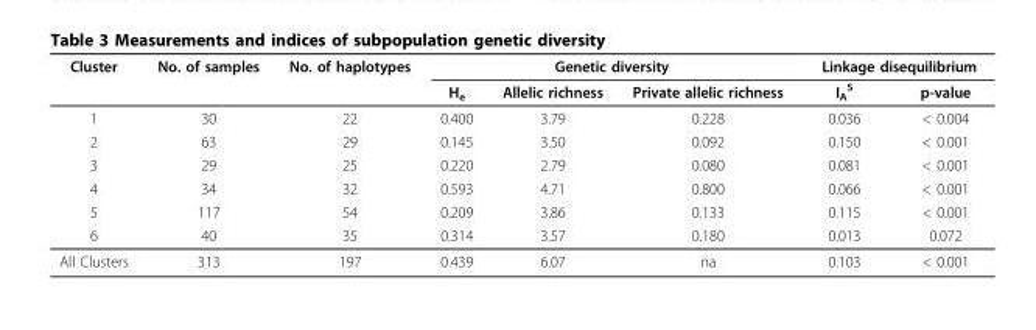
<table><thead><tr><td rowspan="2">Cluster</td><td rowspan="2">No. of samples</td><td rowspan="2">No. of haplotypes</td><td colspan="3">Genetic diversity</td><td colspan="2">Linkage disequilibrium</td></tr><tr><td>H<sub>e</sub></td><td>Allelic richness</td><td>Private allelic richness</td><td>I<sub>A</sub> <sup>S</sup></td><td>p-value</td></tr></thead><tbody><tr><td>1</td><td>30</td><td>22</td><td>0.400</td><td>3.79</td><td>0.228</td><td>0.036</td><td>&lt; 0.004</td></tr><tr><td>2</td><td>63</td><td>29</td><td>0.145</td><td>3.50</td><td>0.092</td><td>0.150</td><td>&lt; 0.001</td></tr><tr><td>3</td><td>29</td><td>25</td><td>0.220</td><td>2.79</td><td>0.080</td><td>0.081</td><td>&lt; 0.001</td></tr><tr><td>4</td><td>34</td><td>32</td><td>0.593</td><td>4.71</td><td>0.800</td><td>0.066</td><td>&lt; 0.001</td></tr><tr><td>5</td><td>117</td><td>54</td><td>0.209</td><td>3.86</td><td>0.133</td><td>0.115</td><td>&lt; 0.001</td></tr><tr><td>6</td><td>40</td><td>35</td><td>0.314</td><td>3.57</td><td>0.180</td><td>0.013</td><td>0.072</td></tr><tr><td>All Clusters</td><td>313</td><td>197</td><td>0.439</td><td>6.07</td><td>na</td><td>0.103</td><td>&lt; 0.001</td></tr></tbody></table>